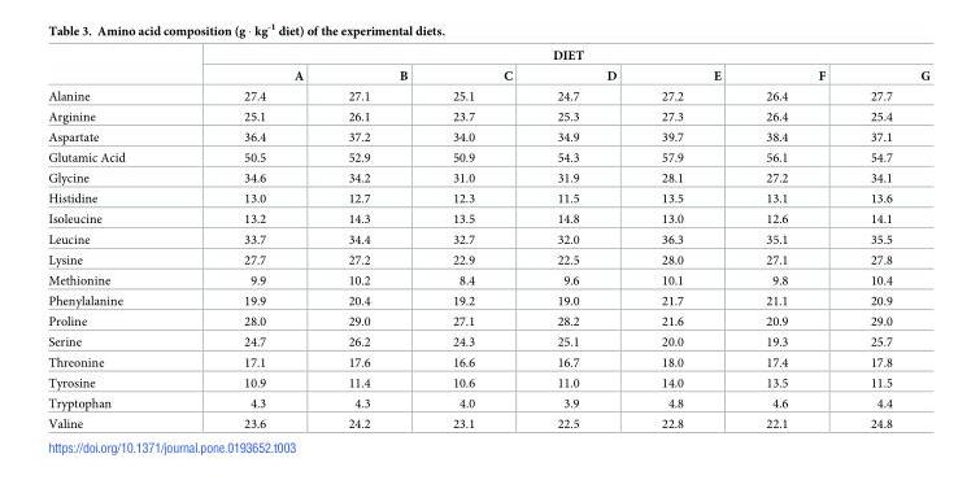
<table><thead><tr><td rowspan="2"></td><td colspan="7">DIET</td></tr><tr><td>A</td><td>B</td><td>C</td><td>D</td><td>E</td><td>F</td><td>G</td></tr></thead><tbody><tr><td>Alanine</td><td>27.4</td><td>27.1</td><td>25.1</td><td>24.7</td><td>27.2</td><td>26.4</td><td>27.7</td></tr><tr><td>Arginine</td><td>25.1</td><td>26.1</td><td>23.7</td><td>25.3</td><td>27.3</td><td>26.4</td><td>25.4</td></tr><tr><td>Aspartate</td><td>36.4</td><td>37.2</td><td>34.0</td><td>34.9</td><td>39.7</td><td>38.4</td><td>37.1</td></tr><tr><td>Glutamic Acid</td><td>50.5</td><td>52.9</td><td>50.9</td><td>54.3</td><td>57.9</td><td>56.1</td><td>54.7</td></tr><tr><td>Glycine</td><td>34.6</td><td>34.2</td><td>31.0</td><td>31.9</td><td>28.1</td><td>27.2</td><td>34.1</td></tr><tr><td>Histidine</td><td>13.0</td><td>12.7</td><td>12.3</td><td>11.5</td><td>13.5</td><td>13.1</td><td>13.6</td></tr><tr><td>Isoleucine</td><td>13.2</td><td>14.3</td><td>13.5</td><td>14.8</td><td>13.0</td><td>12.6</td><td>14.1</td></tr><tr><td>Leucine</td><td>33.7</td><td>34.4</td><td>32.7</td><td>32.0</td><td>36.3</td><td>35.1</td><td>35.5</td></tr><tr><td>Lysine</td><td>27.7</td><td>27.2</td><td>22.9</td><td>22.5</td><td>28.0</td><td>27.1</td><td>27.8</td></tr><tr><td>Methionine</td><td>9.9</td><td>10.2</td><td>8.4</td><td>9.6</td><td>10.1</td><td>9.8</td><td>10.4</td></tr><tr><td>Phenylalanine</td><td>19.9</td><td>20.4</td><td>19.2</td><td>19.0</td><td>21.7</td><td>21.1</td><td>20.9</td></tr><tr><td>Proline</td><td>28.0</td><td>29.0</td><td>27.1</td><td>28.2</td><td>21.6</td><td>20.9</td><td>29.0</td></tr><tr><td>Serine</td><td>24.7</td><td>26.2</td><td>24.3</td><td>25.1</td><td>20.0</td><td>19.3</td><td>25.7</td></tr><tr><td>Threonine</td><td>17.1</td><td>17.6</td><td>16.6</td><td>16.7</td><td>18.0</td><td>17.4</td><td>17.8</td></tr><tr><td>Tyrosine</td><td>10.9</td><td>11.4</td><td>10.6</td><td>11.0</td><td>14.0</td><td>13.5</td><td>11.5</td></tr><tr><td>Tryptophan</td><td>4.3</td><td>4.3</td><td>4.0</td><td>3.9</td><td>4.8</td><td>4.6</td><td>4.4</td></tr><tr><td>Valine</td><td>23.6</td><td>24.2</td><td>23.1</td><td>22.5</td><td>22.8</td><td>22.1</td><td>24.8</td></tr></tbody></table>